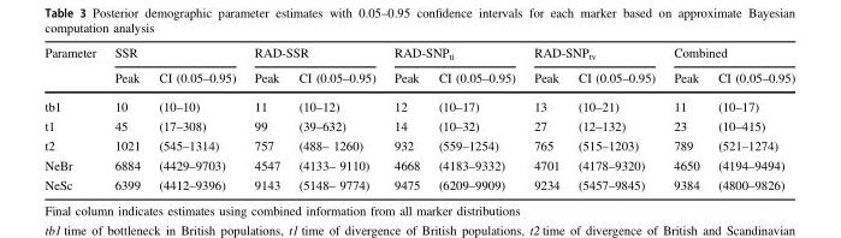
<table><thead><tr><td rowspan="2">Parameter</td><td colspan="2">SSR</td><td colspan="2">RAD-SSR</td><td colspan="2">RAD-SNP<sub>ti</sub></td><td colspan="2">RAD-SNP<sub>tv</sub></td><td colspan="2">Combined</td></tr><tr><td>Peak</td><td>CI (0.05–0.95)</td><td>Peak</td><td>CI (0.05–0.95)</td><td>Peak</td><td>CI (0.05–0.95)</td><td>Peak</td><td>CI (0.05–0.95)</td><td>Peak</td><td>CI (0.05–0.95)</td></tr></thead><tbody><tr><td>tb1</td><td>10</td><td>(10–10)</td><td>11</td><td>(10–12)</td><td>12</td><td>(10–17)</td><td>13</td><td>(10–21)</td><td>11</td><td>(10–17)</td></tr><tr><td>t1</td><td>45</td><td>(17–308)</td><td>99</td><td>(39–632)</td><td>14</td><td>(10–32)</td><td>27</td><td>(12–132)</td><td>23</td><td>(10–415)</td></tr><tr><td>t2</td><td>1021</td><td>(545–1314)</td><td>757</td><td>(488– 1260)</td><td>932</td><td>(559–1254)</td><td>765</td><td>(515–1203)</td><td>789</td><td>(521–1274)</td></tr><tr><td>NeBr</td><td>6884</td><td>(4429–9703)</td><td>4547</td><td>(4133– 9110)</td><td>4668</td><td>(4183–9332)</td><td>4701</td><td>(4178–9320)</td><td>4650</td><td>(4194–9494)</td></tr><tr><td>NeSc</td><td>6399</td><td>(4412–9396)</td><td>9143</td><td>(5148– 9774)</td><td>9475</td><td>(6209–9909)</td><td>9234</td><td>(5457–9845)</td><td>9384</td><td>(4800–9826)</td></tr></tbody></table>